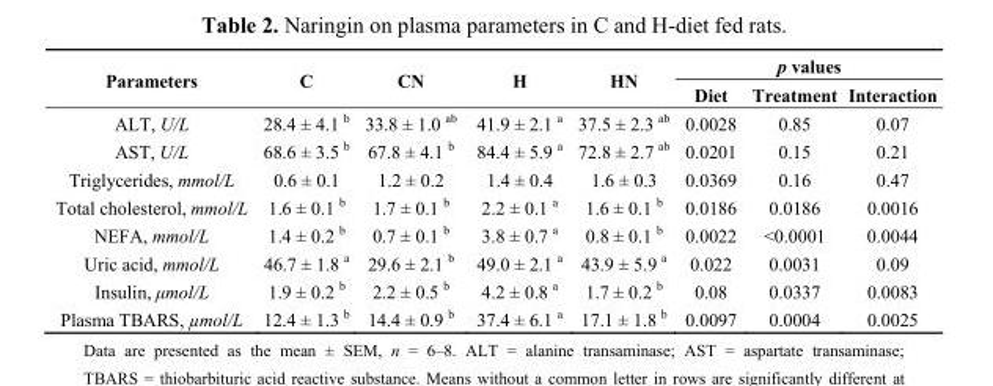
<table><thead><tr><td rowspan="2">Parameters</td><td rowspan="2">C</td><td rowspan="2">CN</td><td rowspan="2">H</td><td rowspan="2">HN</td><td colspan="3">p values</td></tr><tr><td>Diet</td><td>Treatment</td><td>Interaction</td></tr></thead><tbody><tr><td>ALT, U/L</td><td>28.4 ± 4.1 <sup>b</sup></td><td>33.8 ± 1.0 <sup>ab</sup></td><td>41.9 ± 2.1 <sup>a</sup></td><td>37.5 ± 2.3 <sup>ab</sup></td><td>0.0028</td><td>0.85</td><td>0.07</td></tr><tr><td>AST, U/L</td><td>68.6 ± 3.5 <sup>b</sup></td><td>67.8 ± 4.1 <sup>b</sup></td><td>84.4 ± 5.9 <sup>a</sup></td><td>72.8 ± 2.7 <sup>ab</sup></td><td>0.0201</td><td>0.15</td><td>0.21</td></tr><tr><td>Triglycerides, mmol/L</td><td>0.6 ± 0.1</td><td>1.2 ± 0.2</td><td>1.4 ± 0.4</td><td>1.6 ± 0.3</td><td>0.0369</td><td>0.16</td><td>0.47</td></tr><tr><td>Total cholesterol, mmol/L</td><td>1.6 ± 0.1 <sup>b</sup></td><td>1.7 ± 0.1 <sup>b</sup></td><td>2.2 ± 0.1 <sup>a</sup></td><td>1.6 ± 0.1 <sup>b</sup></td><td>0.0186</td><td>0.0186</td><td>0.0016</td></tr><tr><td>NEFA, mmol/L</td><td>1.4 ± 0.2 <sup>b</sup></td><td>0.7 ± 0.1 <sup>b</sup></td><td>3.8 ± 0.7 <sup>a</sup></td><td>0.8 ± 0.1 <sup>b</sup></td><td>0.0022</td><td>&lt;0.0001</td><td>0.0044</td></tr><tr><td>Uric acid, mmol/L</td><td>46.7 ± 1.8 <sup>a</sup></td><td>29.6 ± 2.1 <sup>b</sup></td><td>49.0 ± 2.1 <sup>a</sup></td><td>43.9 ± 5.9 <sup>a</sup></td><td>0.022</td><td>0.0031</td><td>0.09</td></tr><tr><td>Insulin, μmol/L</td><td>1.9 ± 0.2 <sup>b</sup></td><td>2.2 ± 0.5 <sup>b</sup></td><td>4.2 ± 0.8 <sup>a</sup></td><td>1.7 ± 0.2 <sup>b</sup></td><td>0.08</td><td>0.0337</td><td>0.0083</td></tr><tr><td>Plasma TBARS, µmol/L</td><td>12.4 ± 1.3 <sup>b</sup></td><td>14.4 ± 0.9 <sup>b</sup></td><td>37.4 ± 6.1 <sup>a</sup></td><td>17.1 ± 1.8 <sup>b</sup></td><td>0.0097</td><td>0.0004</td><td>0.0025</td></tr></tbody></table>